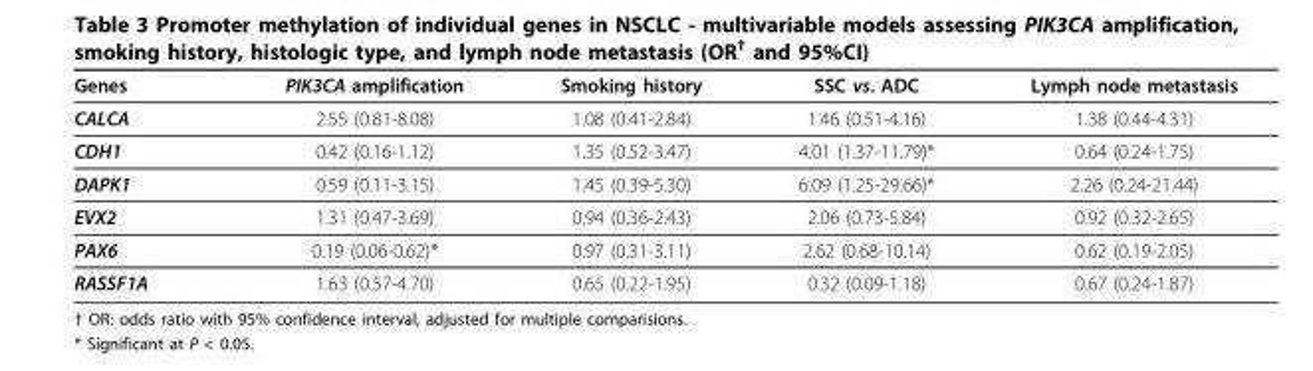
<table><thead><tr><td>Genes</td><td>PIK3CA amplification</td><td>Smoking history</td><td>SSC vs. ADC</td><td>Lymph node metastasis</td></tr></thead><tbody><tr><td>CALCA</td><td>2.55 (0.81-8.08)</td><td>1.08 (0.41-2.84)</td><td>1.46 (0.51-4.16)</td><td>1.38 (0.44-4.31)</td></tr><tr><td>CDH1</td><td>0.42 (0.16-1.12)</td><td>1.35 (0.52-3.47)</td><td>4.01 (1.37-11.79)*</td><td>0.64 (0.24-1.75)</td></tr><tr><td>DAPK1</td><td>0.59 (0.11-3.15)</td><td>1.45 (0.39-5.30)</td><td>6.09 (1.25-29.66)*</td><td>2.26 (0.24-21.44)</td></tr><tr><td>EVX2</td><td>1.31 (0.47-3.69)</td><td>0.94 (0.36-2.43)</td><td>2.06 (0.73-5.84)</td><td>0.92 (0.32-2.65)</td></tr><tr><td>PAX6</td><td>0.19 (0.06-0.62)*</td><td>0.97 (0.31-3.11)</td><td>2.62 (0.68-10.14)</td><td>0.62 (0.19-2.05)</td></tr><tr><td>RASSF1A</td><td>1.63 (0.57-4.70)</td><td>0.65 (0.22-1.95)</td><td>0.32 (0.09-1.18)</td><td>0.67 (0.24-1.87)</td></tr></tbody></table>